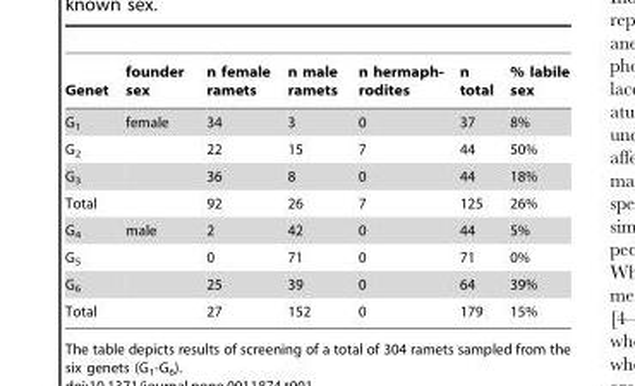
<table><thead><tr><td>Genet</td><td>founder sex</td><td>n female ramets</td><td>n male ramets</td><td>n hermaph- rodites</td><td>n total</td><td>% labile sex</td></tr></thead><tbody><tr><td>G<sub>1</sub></td><td>female</td><td>34</td><td>3</td><td>0</td><td>37</td><td>8%</td></tr><tr><td>G<sub>2</sub></td><td></td><td>22</td><td>15</td><td>7</td><td>44</td><td>50%</td></tr><tr><td>G<sub>3</sub></td><td></td><td>36</td><td>8</td><td>0</td><td>44</td><td>18%</td></tr><tr><td>Total</td><td></td><td>92</td><td>26</td><td>7</td><td>125</td><td>26%</td></tr><tr><td>G<sub>4</sub></td><td>male</td><td>2</td><td>42</td><td>0</td><td>44</td><td>5%</td></tr><tr><td>G<sub>5</sub></td><td></td><td>0</td><td>71</td><td>0</td><td>71</td><td>0%</td></tr><tr><td>G<sub>6</sub></td><td></td><td>25</td><td>39</td><td>0</td><td>64</td><td>39%</td></tr><tr><td>Total</td><td></td><td>27</td><td>152</td><td>0</td><td>179</td><td>15%</td></tr></tbody></table>